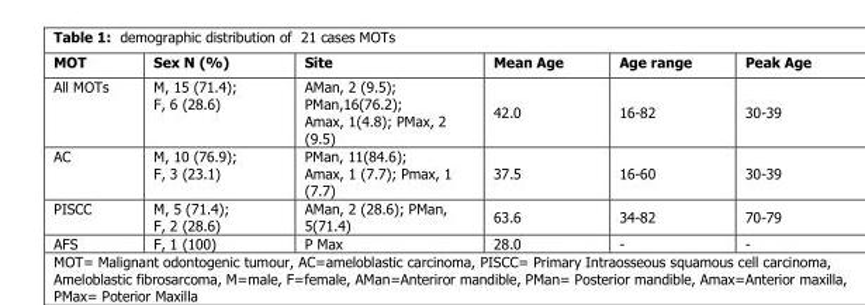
<table><thead><tr><td>MOT</td><td>Sex N (%)</td><td>Site</td><td>Mean Age</td><td>Age range</td><td>Peak Age</td></tr></thead><tbody><tr><td>All MOTs</td><td>M, 15 (71.4); F, 6 (28.6)</td><td>AMan, 2 (9.5); PMan,16(76.2); Amax, 1(4.8); PMax, 2 (9.5)</td><td>42.0</td><td>16-82</td><td>30-39</td></tr><tr><td>AC</td><td>M, 10 (76.9); F, 3 (23.1)</td><td>PMan, 11(84.6); Amax, 1 (7.7); Pmax, 1 (7.7)</td><td>37.5</td><td>16-60</td><td>30-39</td></tr><tr><td>PISCC</td><td>M, 5 (71.4); F, 2 (28.6)</td><td>AMan, 2 (28.6); PMan, 5(71.4)</td><td>63.6</td><td>34-82</td><td>70-79</td></tr><tr><td>AFS</td><td>F, 1 (100)</td><td>P Max</td><td>28.0</td><td>-</td><td>-</td></tr></tbody></table>